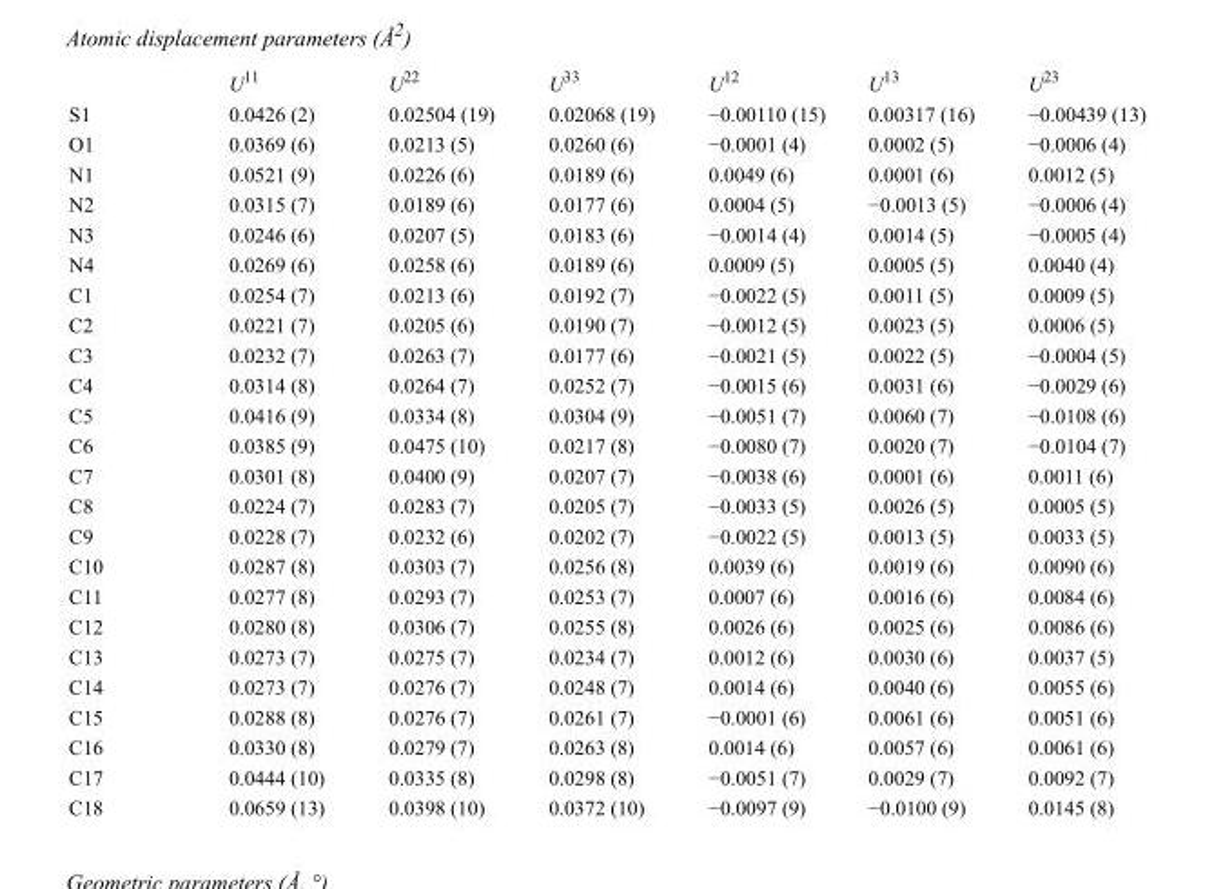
<table><thead><tr><td></td><td>U<sup>11</sup></td><td>U<sup>22</sup></td><td>U<sup>33</sup></td><td>U<sup>12</sup></td><td>U<sup>13</sup></td><td>U<sup>23</sup></td></tr></thead><tbody><tr><td>S1</td><td>0.0426 (2)</td><td>0.02504 (19)</td><td>0.02068 (19)</td><td>−0.00110 (15)</td><td>0.00317 (16)</td><td>−0.00439 (13)</td></tr><tr><td>O1</td><td>0.0369 (6)</td><td>0.0213 (5)</td><td>0.0260 (6)</td><td>−0.0001 (4)</td><td>0.0002 (5)</td><td>−0.0006 (4)</td></tr><tr><td>N1</td><td>0.0521 (9)</td><td>0.0226 (6)</td><td>0.0189 (6)</td><td>0.0049 (6)</td><td>0.0001 (6)</td><td>0.0012 (5)</td></tr><tr><td>N2</td><td>0.0315 (7)</td><td>0.0189 (6)</td><td>0.0177 (6)</td><td>0.0004 (5)</td><td>−0.0013 (5)</td><td>−0.0006 (4)</td></tr><tr><td>N3</td><td>0.0246 (6)</td><td>0.0207 (5)</td><td>0.0183 (6)</td><td>−0.0014 (4)</td><td>0.0014 (5)</td><td>−0.0005 (4)</td></tr><tr><td>N4</td><td>0.0269 (6)</td><td>0.0258 (6)</td><td>0.0189 (6)</td><td>0.0009 (5)</td><td>0.0005 (5)</td><td>0.0040 (4)</td></tr><tr><td>C1</td><td>0.0254 (7)</td><td>0.0213 (6)</td><td>0.0192 (7)</td><td>−0.0022 (5)</td><td>0.0011 (5)</td><td>0.0009 (5)</td></tr><tr><td>C2</td><td>0.0221 (7)</td><td>0.0205 (6)</td><td>0.0190 (7)</td><td>−0.0012 (5)</td><td>0.0023 (5)</td><td>0.0006 (5)</td></tr><tr><td>C3</td><td>0.0232 (7)</td><td>0.0263 (7)</td><td>0.0177 (6)</td><td>−0.0021 (5)</td><td>0.0022 (5)</td><td>−0.0004 (5)</td></tr><tr><td>C4</td><td>0.0314 (8)</td><td>0.0264 (7)</td><td>0.0252 (7)</td><td>−0.0015 (6)</td><td>0.0031 (6)</td><td>−0.0029 (6)</td></tr><tr><td>C5</td><td>0.0416 (9)</td><td>0.0334 (8)</td><td>0.0304 (9)</td><td>−0.0051 (7)</td><td>0.0060 (7)</td><td>−0.0108 (6)</td></tr><tr><td>C6</td><td>0.0385 (9)</td><td>0.0475 (10)</td><td>0.0217 (8)</td><td>−0.0080 (7)</td><td>0.0020 (7)</td><td>−0.0104 (7)</td></tr><tr><td>C7</td><td>0.0301 (8)</td><td>0.0400 (9)</td><td>0.0207 (7)</td><td>−0.0038 (6)</td><td>0.0001 (6)</td><td>0.0011 (6)</td></tr><tr><td>C8</td><td>0.0224 (7)</td><td>0.0283 (7)</td><td>0.0205 (7)</td><td>−0.0033 (5)</td><td>0.0026 (5)</td><td>0.0005 (5)</td></tr><tr><td>C9</td><td>0.0228 (7)</td><td>0.0232 (6)</td><td>0.0202 (7)</td><td>−0.0022 (5)</td><td>0.0013 (5)</td><td>0.0033 (5)</td></tr><tr><td>C10</td><td>0.0287 (8)</td><td>0.0303 (7)</td><td>0.0256 (8)</td><td>0.0039 (6)</td><td>0.0019 (6)</td><td>0.0090 (6)</td></tr><tr><td>C11</td><td>0.0277 (8)</td><td>0.0293 (7)</td><td>0.0253 (7)</td><td>0.0007 (6)</td><td>0.0016 (6)</td><td>0.0084 (6)</td></tr><tr><td>C12</td><td>0.0280 (8)</td><td>0.0306 (7)</td><td>0.0255 (8)</td><td>0.0026 (6)</td><td>0.0025 (6)</td><td>0.0086 (6)</td></tr><tr><td>C13</td><td>0.0273 (7)</td><td>0.0275 (7)</td><td>0.0234 (7)</td><td>0.0012 (6)</td><td>0.0030 (6)</td><td>0.0037 (5)</td></tr><tr><td>C14</td><td>0.0273 (7)</td><td>0.0276 (7)</td><td>0.0248 (7)</td><td>0.0014 (6)</td><td>0.0040 (6)</td><td>0.0055 (6)</td></tr><tr><td>C15</td><td>0.0288 (8)</td><td>0.0276 (7)</td><td>0.0261 (7)</td><td>−0.0001 (6)</td><td>0.0061 (6)</td><td>0.0051 (6)</td></tr><tr><td>C16</td><td>0.0330 (8)</td><td>0.0279 (7)</td><td>0.0263 (8)</td><td>0.0014 (6)</td><td>0.0057 (6)</td><td>0.0061 (6)</td></tr><tr><td>C17</td><td>0.0444 (10)</td><td>0.0335 (8)</td><td>0.0298 (8)</td><td>−0.0051 (7)</td><td>0.0029 (7)</td><td>0.0092 (7)</td></tr><tr><td>C18</td><td>0.0659 (13)</td><td>0.0398 (10)</td><td>0.0372 (10)</td><td>−0.0097 (9)</td><td>−0.0100 (9)</td><td>0.0145 (8)</td></tr></tbody></table>